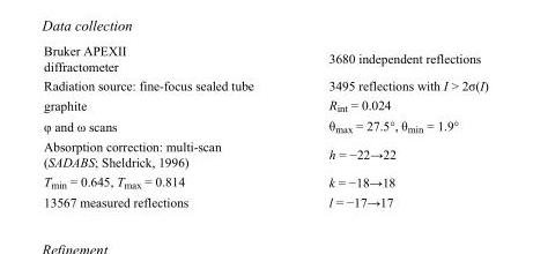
<table><tbody><tr><td>Bruker APEXII diffractometer</td><td>3680 independent reflections</td></tr><tr><td>Radiation source: fine-focus sealed tube</td><td>3495 reflections with I &gt; 2σ(I)</td></tr><tr><td>graphite</td><td>R<sub>int</sub> = 0.024</td></tr><tr><td>φ and ω scans</td><td>θ<sub>max</sub> = 27.5°, θ<sub>min</sub> = 1.9°</td></tr><tr><td>Absorption correction: multi-scan (SADABS; Sheldrick, 1996)</td><td>h = −22→22</td></tr><tr><td>T<sub>min</sub> = 0.645, T<sub>max</sub> = 0.814</td><td>k = −18→18</td></tr><tr><td>13567 measured reflections</td><td>l = −17→17</td></tr></tbody></table>